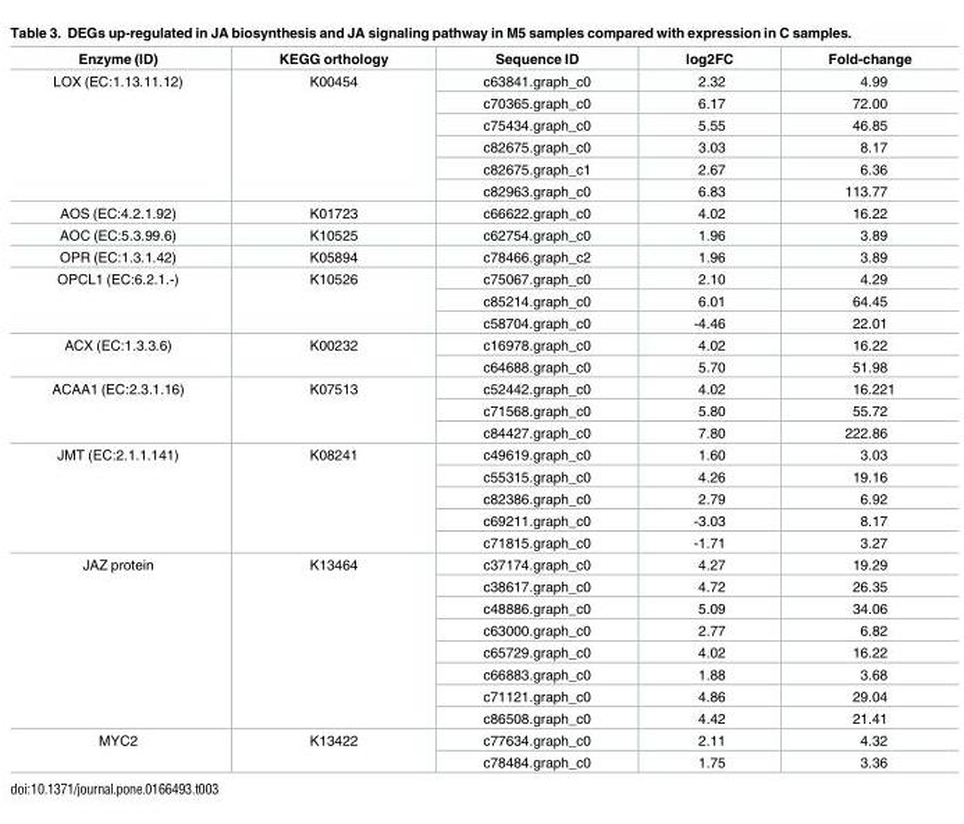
<table><thead><tr><td>Enzyme (ID)</td><td>KEGG orthology</td><td>Sequence ID</td><td>log2FC</td><td>Fold-change</td></tr></thead><tbody><tr><td rowspan="6">LOX (EC:1.13.11.12)</td><td rowspan="6">K00454</td><td>c63841.graph_c0</td><td>2.32</td><td>4.99</td></tr><tr><td>c70365.graph_c0</td><td>6.17</td><td>72.00</td></tr><tr><td>c75434.graph_c0</td><td>5.55</td><td>46.85</td></tr><tr><td>c82675.graph_c0</td><td>3.03</td><td>8.17</td></tr><tr><td>c82675.graph_c1</td><td>2.67</td><td>6.36</td></tr><tr><td>c82963.graph_c0</td><td>6.83</td><td>113.77</td></tr><tr><td>AOS (EC:4.2.1.92)</td><td>K01723</td><td>c66622.graph_c0</td><td>4.02</td><td>16.22</td></tr><tr><td>AOC (EC:5.3.99.6)</td><td>K10525</td><td>c62754.graph_c0</td><td>1.96</td><td>3.89</td></tr><tr><td>OPR (EC:1.3.1.42)</td><td>K05894</td><td>c78466.graph_c2</td><td>1.96</td><td>3.89</td></tr><tr><td rowspan="3">OPCL1 (EC:6.2.1.-)</td><td rowspan="3">K10526</td><td>c75067.graph_c0</td><td>2.10</td><td>4.29</td></tr><tr><td>c85214.graph_c0</td><td>6.01</td><td>64.45</td></tr><tr><td>c58704.graph_c0</td><td>-4.46</td><td>22.01</td></tr><tr><td rowspan="2">ACX (EC:1.3.3.6)</td><td rowspan="2">K00232</td><td>c16978.graph_c0</td><td>4.02</td><td>16.22</td></tr><tr><td>c64688.graph_c0</td><td>5.70</td><td>51.98</td></tr><tr><td rowspan="3">ACAA1 (EC:2.3.1.16)</td><td rowspan="3">K07513</td><td>c52442.graph_c0</td><td>4.02</td><td>16.221</td></tr><tr><td>c71568.graph_c0</td><td>5.80</td><td>55.72</td></tr><tr><td>c84427.graph_c0</td><td>7.80</td><td>222.86</td></tr><tr><td rowspan="5">JMT (EC:2.1.1.141)</td><td rowspan="5">K08241</td><td>c49619.graph_c0</td><td>1.60</td><td>3.03</td></tr><tr><td>c55315.graph_c0</td><td>4.26</td><td>19.16</td></tr><tr><td>c82386.graph_c0</td><td>2.79</td><td>6.92</td></tr><tr><td>c69211.graph_c0</td><td>-3.03</td><td>8.17</td></tr><tr><td>c71815.graph_c0</td><td>-1.71</td><td>3.27</td></tr><tr><td rowspan="8">JAZ protein</td><td rowspan="8">K13464</td><td>c37174.graph_c0</td><td>4.27</td><td>19.29</td></tr><tr><td>c38617.graph_c0</td><td>4.72</td><td>26.35</td></tr><tr><td>c48886.graph_c0</td><td>5.09</td><td>34.06</td></tr><tr><td>c63000.graph_c0</td><td>2.77</td><td>6.82</td></tr><tr><td>c65729.graph_c0</td><td>4.02</td><td>16.22</td></tr><tr><td>c66883.graph_c0</td><td>1.88</td><td>3.68</td></tr><tr><td>c71121.graph_c0</td><td>4.86</td><td>29.04</td></tr><tr><td>c86508.graph_c0</td><td>4.42</td><td>21.41</td></tr><tr><td rowspan="2">MYC2</td><td rowspan="2">K13422</td><td>c77634.graph_c0</td><td>2.11</td><td>4.32</td></tr><tr><td>c78484.graph_c0</td><td>1.75</td><td>3.36</td></tr></tbody></table>